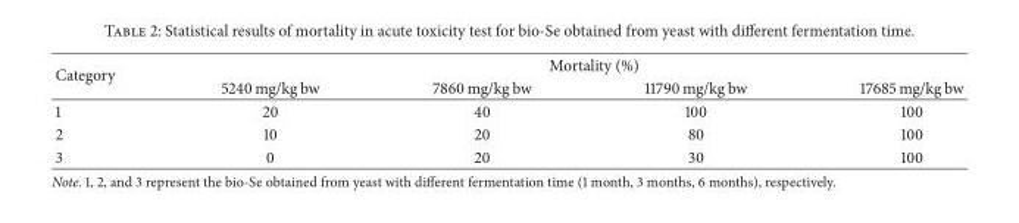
<table><thead><tr><td rowspan="2">Category</td><td colspan="4">Mortality (%)</td></tr><tr><td>5240 mg/kg bw</td><td>7860 mg/kg bw</td><td>11790 mg/kg bw</td><td>17685 mg/kg bw</td></tr></thead><tbody><tr><td>1</td><td>20</td><td>40</td><td>100</td><td>100</td></tr><tr><td>2</td><td>10</td><td>20</td><td>80</td><td>100</td></tr><tr><td>3</td><td>0</td><td>20</td><td>30</td><td>100</td></tr></tbody></table>